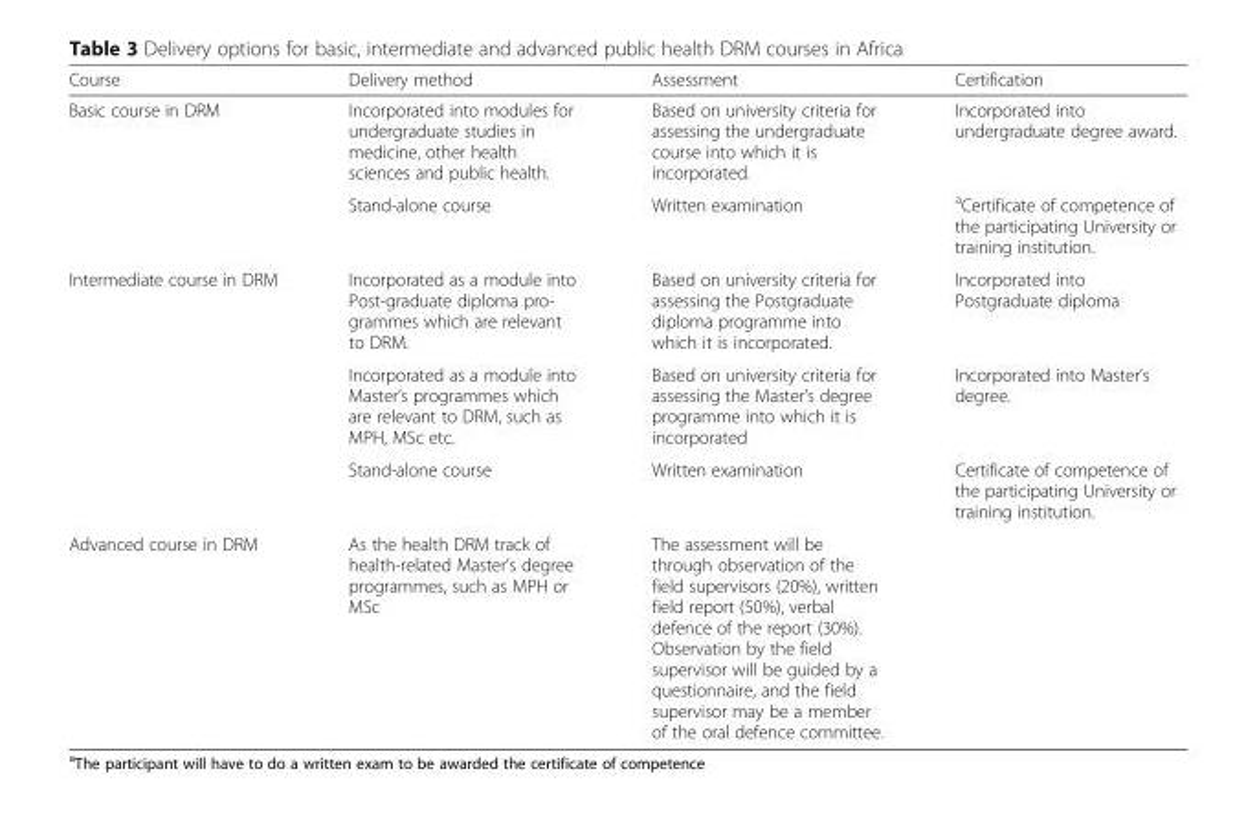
<table><thead><tr><td>Course</td><td>Delivery method</td><td>Assessment</td><td>Certification</td></tr></thead><tbody><tr><td rowspan="2">Basic course in DRM</td><td>Incorporated into modules for undergraduate studies in medicine, other health sciences and public health.</td><td>Based on university criteria for assessing the undergraduate course into which it is incorporated.</td><td>Incorporated into undergraduate degree award.</td></tr><tr><td>Stand-alone course</td><td>Written examination</td><td><sup>a</sup>Certificate of competence of the participating University or training institution.</td></tr><tr><td rowspan="3">Intermediate course in DRM</td><td>Incorporated as a module into Post-graduate diploma pro- grammes which are relevant to DRM.</td><td>Based on university criteria for assessing the Postgraduate diploma programme into which it is incorporated.</td><td>Incorporated into Postgraduate diploma</td></tr><tr><td>Incorporated as a module into Master’s programmes which are relevant to DRM, such as MPH, MSc etc.</td><td>Based on university criteria for assessing the Master’s degree programme into which it is incorporated</td><td>Incorporated into Master’s degree.</td></tr><tr><td>Stand-alone course</td><td>Written examination</td><td>Certificate of competence of the participating University or training institution.</td></tr><tr><td>Advanced course in DRM</td><td>As the health DRM track of health-related Master’s degree programmes, such as MPH or MSc</td><td>The assessment will be through observation of the field supervisors (20%), written field report (50%), verbal defence of the report (30%). Observation by the field supervisor will be guided by a questionnaire, and the field supervisor may be a member of the oral defence committee.</td><td></td></tr></tbody></table>